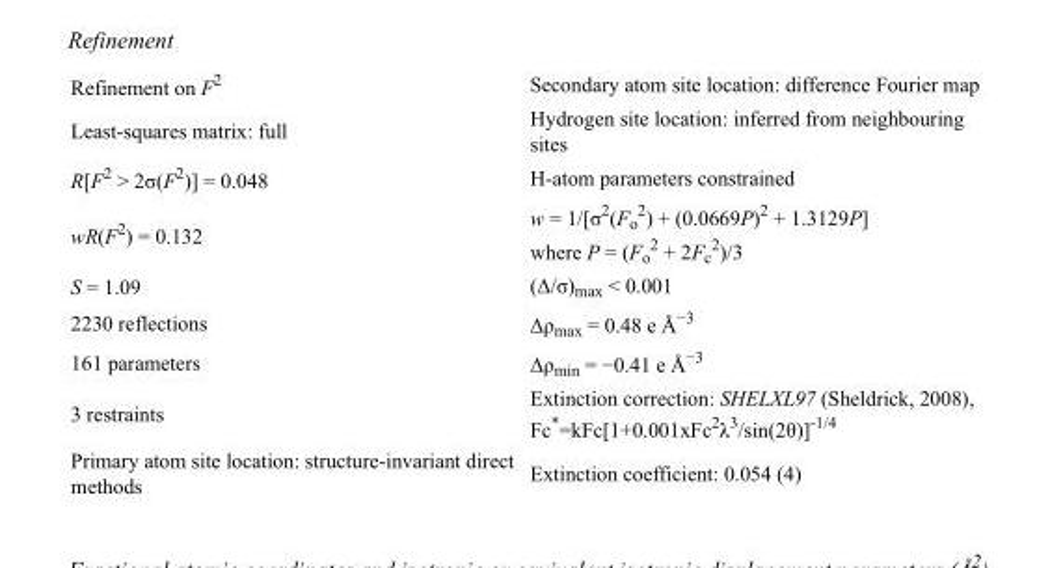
<table><tbody><tr><td>Refinement on F<sup>2</sup></td><td>Secondary atom site location: difference Fourier map</td></tr><tr><td>Least-squares matrix: full</td><td>Hydrogen site location: inferred from neighbouring sites</td></tr><tr><td>R[F<sup>2</sup> &gt; 2σ(F<sup>2</sup>)] = 0.048</td><td>H-atom parameters constrained</td></tr><tr><td>wR(F<sup>2</sup>) = 0.132</td><td>w = 1/[σ<sup>2</sup>(F<sub>o</sub> <sup>2</sup>) + (0.0669P)<sup>2</sup> + 1.3129P] where P = (F<sub>o</sub> <sup>2</sup> + 2F<sub>c</sub> <sup>2</sup>)/3</td></tr><tr><td>S = 1.09</td><td>(Δ/σ)<sub>max</sub> &lt; 0.001</td></tr><tr><td>2230 reflections</td><td>Δρ<sub>max</sub> = 0.48 e Å<sup>−3</sup></td></tr><tr><td>161 parameters</td><td>Δρ<sub>min</sub> = −0.41 e Å<sup>−3</sup></td></tr><tr><td>3 restraints</td><td>Extinction correction: SHELXL97 (Sheldrick, 2008), Fc*=kFc[1+0.001xFc<sup>2</sup>λ<sup>3</sup>/sin(2θ)]<sup>-1/4</sup></td></tr><tr><td>Primary atom site location: structure-invariant direct methods</td><td>Extinction coefficient: 0.054 (4)</td></tr></tbody></table>